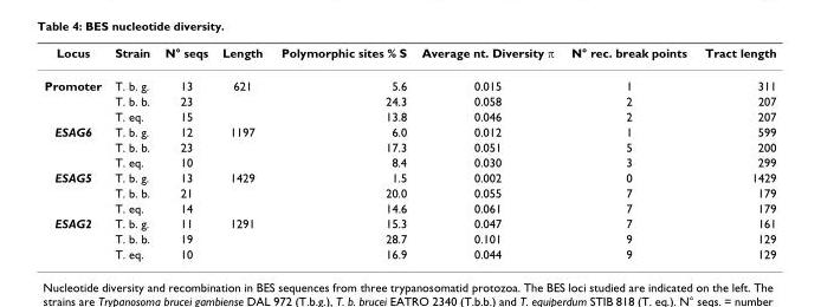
<table><thead><tr><td>Locus</td><td>Strain</td><td>N° seqs</td><td>Length</td><td>Polymorphic sites % S</td><td>Average nt. Diversity π</td><td>N° rec. break points</td><td>Tract length</td></tr></thead><tbody><tr><td rowspan="3">Promoter</td><td>T. b. g.</td><td>13</td><td>621</td><td>5.6</td><td>0.015</td><td>1</td><td>311</td></tr><tr><td>T. b. b.</td><td>23</td><td></td><td>24.3</td><td>0.058</td><td>2</td><td>207</td></tr><tr><td>T. eq.</td><td>15</td><td></td><td>13.8</td><td>0.046</td><td>2</td><td>207</td></tr><tr><td rowspan="3">ESAG6</td><td>T. b. g.</td><td>12</td><td>1197</td><td>6.0</td><td>0.012</td><td>1</td><td>599</td></tr><tr><td>T. b. b.</td><td>23</td><td></td><td>17.3</td><td>0.051</td><td>5</td><td>200</td></tr><tr><td>T. eq.</td><td>10</td><td></td><td>8.4</td><td>0.030</td><td>3</td><td>299</td></tr><tr><td rowspan="3">ESAG5</td><td>T. b. g.</td><td>13</td><td>1429</td><td>1.5</td><td>0.002</td><td>0</td><td>1429</td></tr><tr><td>T. b. b.</td><td>21</td><td></td><td>20.0</td><td>0.055</td><td>7</td><td>179</td></tr><tr><td>T. eq.</td><td>14</td><td></td><td>14.6</td><td>0.061</td><td>7</td><td>179</td></tr><tr><td rowspan="3">ESAG2</td><td>T. b. g.</td><td>11</td><td>1291</td><td>15.3</td><td>0.047</td><td>7</td><td>161</td></tr><tr><td>T. b. b.</td><td>19</td><td></td><td>28.7</td><td>0.101</td><td>9</td><td>129</td></tr><tr><td>T. eq.</td><td>10</td><td></td><td>16.9</td><td>0.044</td><td>9</td><td>129</td></tr></tbody></table>